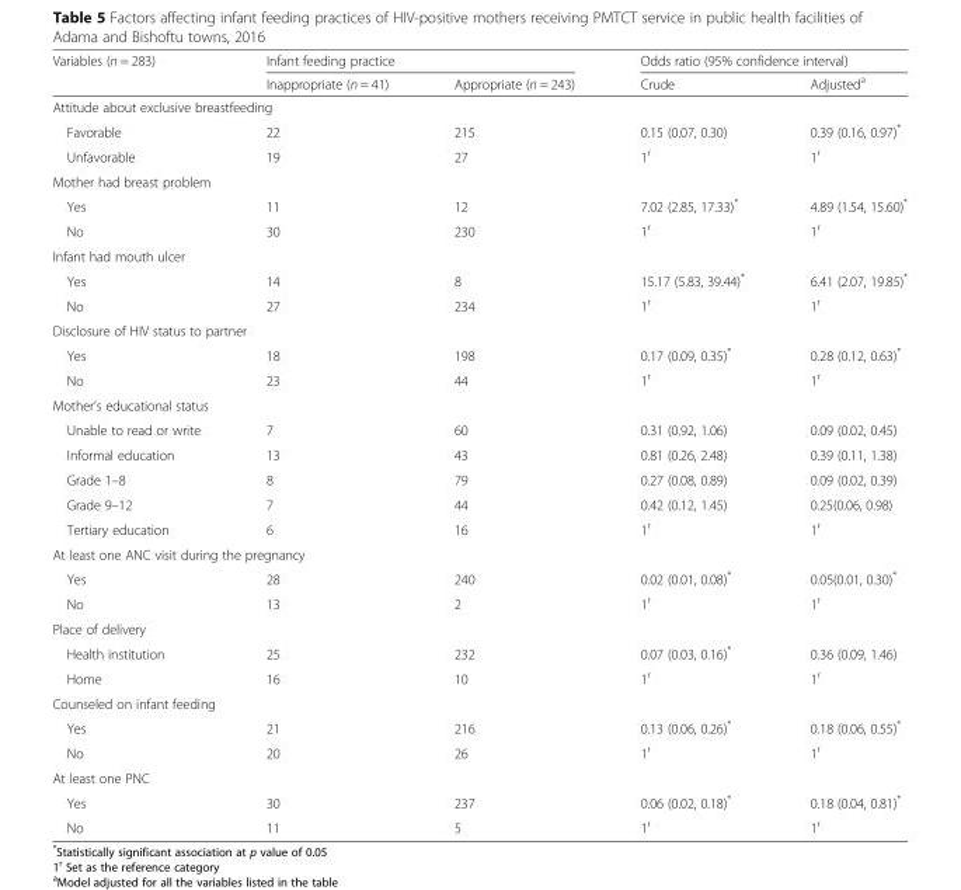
<table><thead><tr><td rowspan="2">Variables (n = 283)</td><td colspan="2">Infant feeding practice</td><td colspan="2">Odds ratio (95% confidence interval)</td></tr><tr><td>Inappropriate (n = 41)</td><td>Appropriate (n = 243)</td><td>Crude</td><td>Adjusted<sup>a</sup></td></tr></thead><tbody><tr><td colspan="5">Attitude about exclusive breastfeeding</td></tr><tr><td>Favorable</td><td>22</td><td>215</td><td>0.15 (0.07, 0.30)</td><td>0.39 (0.16, 0.97)*</td></tr><tr><td>Unfavorable</td><td>19</td><td>27</td><td>1<sup>r</sup></td><td>1<sup>r</sup></td></tr><tr><td colspan="5">Mother had breast problem</td></tr><tr><td>Yes</td><td>11</td><td>12</td><td>7.02 (2.85, 17.33)*</td><td>4.89 (1.54, 15.60)*</td></tr><tr><td>No</td><td>30</td><td>230</td><td>1<sup>r</sup></td><td>1<sup>r</sup></td></tr><tr><td colspan="5">Infant had mouth ulcer</td></tr><tr><td>Yes</td><td>14</td><td>8</td><td>15.17 (5.83, 39.44)*</td><td>6.41 (2.07, 19.85)*</td></tr><tr><td>No</td><td>27</td><td>234</td><td>1<sup>r</sup></td><td>1<sup>r</sup></td></tr><tr><td colspan="5">Disclosure of HIV status to partner</td></tr><tr><td>Yes</td><td>18</td><td>198</td><td>0.17 (0.09, 0.35)*</td><td>0.28 (0.12, 0.63)*</td></tr><tr><td>No</td><td>23</td><td>44</td><td>1<sup>r</sup></td><td>1<sup>r</sup></td></tr><tr><td colspan="5">Mother’s educational status</td></tr><tr><td>Unable to read or write</td><td>7</td><td>60</td><td>0.31 (0.92, 1.06)</td><td>0.09 (0.02, 0.45)</td></tr><tr><td>Informal education</td><td>13</td><td>43</td><td>0.81 (0.26, 2.48)</td><td>0.39 (0.11, 1.38)</td></tr><tr><td>Grade 1–8</td><td>8</td><td>79</td><td>0.27 (0.08, 0.89)</td><td>0.09 (0.02, 0.39)</td></tr><tr><td>Grade 9–12</td><td>7</td><td>44</td><td>0.42 (0.12, 1.45)</td><td>0.25(0.06, 0.98)</td></tr><tr><td>Tertiary education</td><td>6</td><td>16</td><td>1<sup>r</sup></td><td>1<sup>r</sup></td></tr><tr><td colspan="5">At least one ANC visit during the pregnancy</td></tr><tr><td>Yes</td><td>28</td><td>240</td><td>0.02 (0.01, 0.08)*</td><td>0.05(0.01, 0.30)*</td></tr><tr><td>No</td><td>13</td><td>2</td><td>1<sup>r</sup></td><td>1<sup>r</sup></td></tr><tr><td colspan="5">Place of delivery</td></tr><tr><td>Health institution</td><td>25</td><td>232</td><td>0.07 (0.03, 0.16)*</td><td>0.36 (0.09, 1.46)</td></tr><tr><td>Home</td><td>16</td><td>10</td><td>1<sup>r</sup></td><td>1<sup>r</sup></td></tr><tr><td colspan="5">Counseled on infant feeding</td></tr><tr><td>Yes</td><td>21</td><td>216</td><td>0.13 (0.06, 0.26)*</td><td>0.18 (0.06, 0.55)*</td></tr><tr><td>No</td><td>20</td><td>26</td><td>1<sup>r</sup></td><td>1<sup>r</sup></td></tr><tr><td colspan="5">At least one PNC</td></tr><tr><td>Yes</td><td>30</td><td>237</td><td>0.06 (0.02, 0.18)*</td><td>0.18 (0.04, 0.81)*</td></tr><tr><td>No</td><td>11</td><td>5</td><td>1<sup>r</sup></td><td>1<sup>r</sup></td></tr></tbody></table>